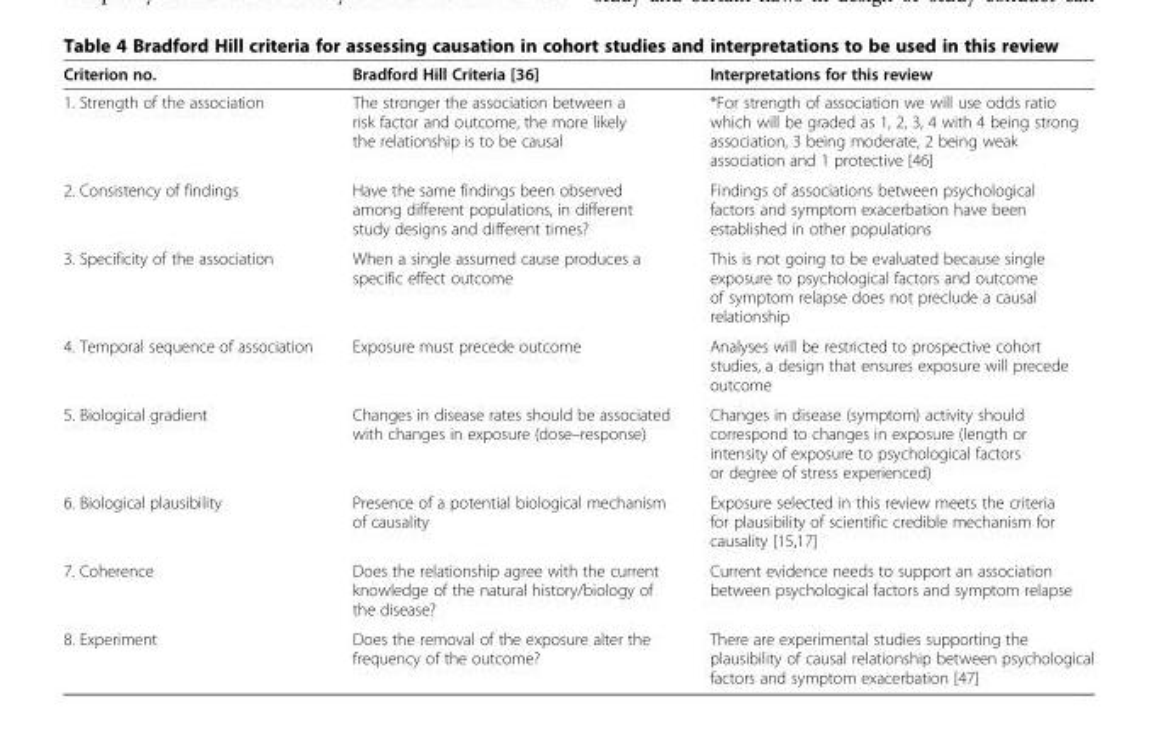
<table><thead><tr><td>Criterion no.</td><td>Bradford Hill Criteria [36]</td><td>Interpretations for this review</td></tr></thead><tbody><tr><td>1. Strength of the association</td><td>The stronger the association between a risk factor and outcome, the more likely the relationship is to be causal</td><td>*For strength of association we will use odds ratio which will be graded as 1, 2, 3, 4 with 4 being strong association, 3 being moderate, 2 being weak association and 1 protective [46]</td></tr><tr><td>2. Consistency of findings</td><td>Have the same findings been observed among different populations, in different study designs and different times?</td><td>Findings of associations between psychological factors and symptom exacerbation have been established in other populations</td></tr><tr><td>3. Specificity of the association</td><td>When a single assumed cause produces a specific effect outcome</td><td>This is not going to be evaluated because single exposure to psychological factors and outcome of symptom relapse does not preclude a causal relationship</td></tr><tr><td>4. Temporal sequence of association</td><td>Exposure must precede outcome</td><td>Analyses will be restricted to prospective cohort studies, a design that ensures exposure will precede outcome</td></tr><tr><td>5. Biological gradient</td><td>Changes in disease rates should be associated with changes in exposure (dose–response)</td><td>Changes in disease (symptom) activity should correspond to changes in exposure (length or intensity of exposure to psychological factors or degree of stress experienced)</td></tr><tr><td>6. Biological plausibility</td><td>Presence of a potential biological mechanism of causality</td><td>Exposure selected in this review meets the criteria for plausibility of scientific credible mechanism for causality [15,17]</td></tr><tr><td>7. Coherence</td><td>Does the relationship agree with the current knowledge of the natural history/biology of the disease?</td><td>Current evidence needs to support an association between psychological factors and symptom relapse</td></tr><tr><td>8. Experiment</td><td>Does the removal of the exposure alter the frequency of the outcome?</td><td>There are experimental studies supporting the plausibility of causal relationship between psychological factors and symptom exacerbation [47]</td></tr></tbody></table>